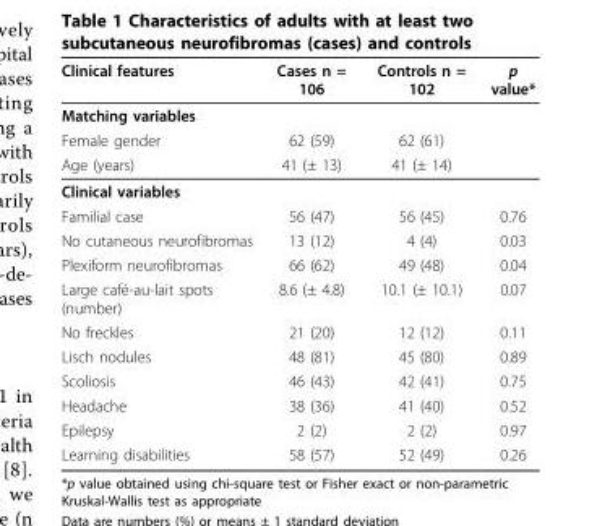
<table><thead><tr><td>Clinical features</td><td>Cases n = 106</td><td>Controls n = 102</td><td>p value*</td></tr></thead><tbody><tr><td colspan="4">Matching variables</td></tr><tr><td>Female gender</td><td>62 (59)</td><td>62 (61)</td><td></td></tr><tr><td>Age (years)</td><td>41 (± 13)</td><td>41 (± 14)</td><td></td></tr><tr><td colspan="4">Clinical variables</td></tr><tr><td>Familial case</td><td>56 (47)</td><td>56 (45)</td><td>0.76</td></tr><tr><td>No cutaneous neurofibromas</td><td>13 (12)</td><td>4 (4)</td><td>0.03</td></tr><tr><td>Plexiform neurofibromas</td><td>66 (62)</td><td>49 (48)</td><td>0.04</td></tr><tr><td>Large café-au-lait spots (number)</td><td>8.6 (± 4.8)</td><td>10.1 (± 10.1)</td><td>0.07</td></tr><tr><td>No freckles</td><td>21 (20)</td><td>12 (12)</td><td>0.11</td></tr><tr><td>Lisch nodules</td><td>48 (81)</td><td>45 (80)</td><td>0.89</td></tr><tr><td>Scoliosis</td><td>46 (43)</td><td>42 (41)</td><td>0.75</td></tr><tr><td>Headache</td><td>38 (36)</td><td>41 (40)</td><td>0.52</td></tr><tr><td>Epilepsy</td><td>2 (2)</td><td>2 (2)</td><td>0.97</td></tr><tr><td>Learning disabilities</td><td>58 (57)</td><td>52 (49)</td><td>0.26</td></tr></tbody></table>